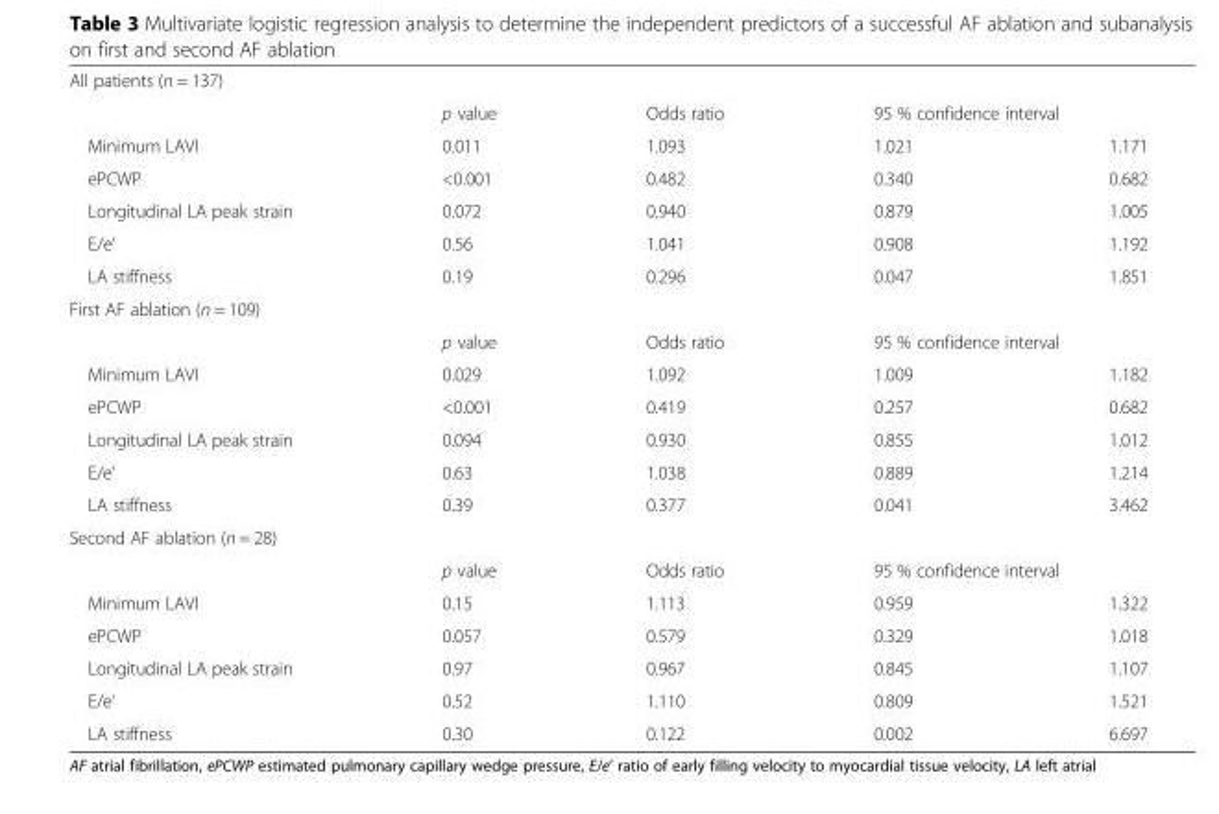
<table><tbody><tr><td colspan="5">All patients (n = 137)</td></tr><tr><td></td><td>p value</td><td>Odds ratio</td><td colspan="2">95 % confidence interval</td></tr><tr><td>Minimum LAVI</td><td>0.011</td><td>1.093</td><td>1.021</td><td>1.171</td></tr><tr><td>ePCWP</td><td>&lt;0.001</td><td>0.482</td><td>0.340</td><td>0.682</td></tr><tr><td>Longitudinal LA peak strain</td><td>0.072</td><td>0.940</td><td>0.879</td><td>1.005</td></tr><tr><td>E/e’</td><td>0.56</td><td>1.041</td><td>0.908</td><td>1.192</td></tr><tr><td>LA stiffness</td><td>0.19</td><td>0.296</td><td>0.047</td><td>1.851</td></tr><tr><td colspan="5">First AF ablation (n = 109)</td></tr><tr><td></td><td>p value</td><td>Odds ratio</td><td colspan="2">95 % confidence interval</td></tr><tr><td>Minimum LAVI</td><td>0.029</td><td>1.092</td><td>1.009</td><td>1.182</td></tr><tr><td>ePCWP</td><td>&lt;0.001</td><td>0.419</td><td>0.257</td><td>0.682</td></tr><tr><td>Longitudinal LA peak strain</td><td>0.094</td><td>0.930</td><td>0.855</td><td>1.012</td></tr><tr><td>E/e’</td><td>0.63</td><td>1.038</td><td>0.889</td><td>1.214</td></tr><tr><td>LA stiffness</td><td>0.39</td><td>0.377</td><td>0.041</td><td>3.462</td></tr><tr><td colspan="5">Second AF ablation (n = 28)</td></tr><tr><td></td><td>p value</td><td>Odds ratio</td><td colspan="2">95 % confidence interval</td></tr><tr><td>Minimum LAVI</td><td>0.15</td><td>1.113</td><td>0.959</td><td>1.322</td></tr><tr><td>ePCWP</td><td>0.057</td><td>0.579</td><td>0.329</td><td>1.018</td></tr><tr><td>Longitudinal LA peak strain</td><td>0.97</td><td>0.967</td><td>0.845</td><td>1.107</td></tr><tr><td>E/e’</td><td>0.52</td><td>1.110</td><td>0.809</td><td>1.521</td></tr><tr><td>LA stiffness</td><td>0.30</td><td>0.122</td><td>0.002</td><td>6.697</td></tr></tbody></table>